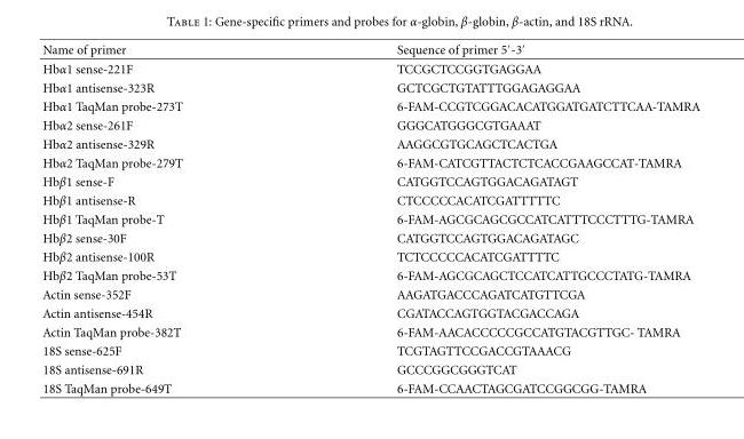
<table><thead><tr><td>Name of primer</td><td>Sequence of primer 5′-3′</td></tr></thead><tbody><tr><td>Hbα1 sense-221F</td><td>TCCGCTCCGGTGAGGAA</td></tr><tr><td>Hbα1 antisense-323R</td><td>GCTCGCTGTATTTGGAGAGGAA</td></tr><tr><td>Hbα1 TaqMan probe-273T</td><td>6-FAM-CCGTCGGACACATGGATGATCTTCAA-TAMRA</td></tr><tr><td>Hbα2 sense-261F</td><td>GGGCATGGGCGTGAAAT</td></tr><tr><td>Hbα2 antisense-329R</td><td>AAGGCGTGCAGCTCACTGA</td></tr><tr><td>Hbα2 TaqMan probe-279T</td><td>6-FAM-CATCGTTACTCTCACCGAAGCCAT-TAMRA</td></tr><tr><td>Hbβ1 sense-F</td><td>CATGGTCCAGTGGACAGATAGT</td></tr><tr><td>Hbβ1 antisense-R</td><td>CTCCCCCACATCGATTTTTC</td></tr><tr><td>Hbβ1 TaqMan probe-T</td><td>6-FAM-AGCGCAGCGCCATCATTTCCCTTTG-TAMRA</td></tr><tr><td>Hbβ2 sense-30F</td><td>CATGGTCCAGTGGACAGATAGC</td></tr><tr><td>Hbβ2 antisense-100R</td><td>TCTCCCCCACATCGATTTTC</td></tr><tr><td>Hbβ2 TaqMan probe-53T</td><td>6-FAM-AGCGCAGCTCCATCATTGCCCTATG-TAMRA</td></tr><tr><td>Actin sense-352F</td><td>AAGATGACCCAGATCATGTTCGA</td></tr><tr><td>Actin antisense-454R</td><td>CGATACCAGTGGTACGACCAGA</td></tr><tr><td>Actin TaqMan probe-382T</td><td>6-FAM-AACACCCCCGCCATGTACGTTGC- TAMRA</td></tr><tr><td>18S sense-625F</td><td>TCGTAGTTCCGACCGTAAACG</td></tr><tr><td>18S antisense-691R</td><td>GCCCGGCGGGTCAT</td></tr><tr><td>18S TaqMan probe-649T</td><td>6-FAM-CCAACTAGCGATCCGGCGG-TAMRA</td></tr></tbody></table>